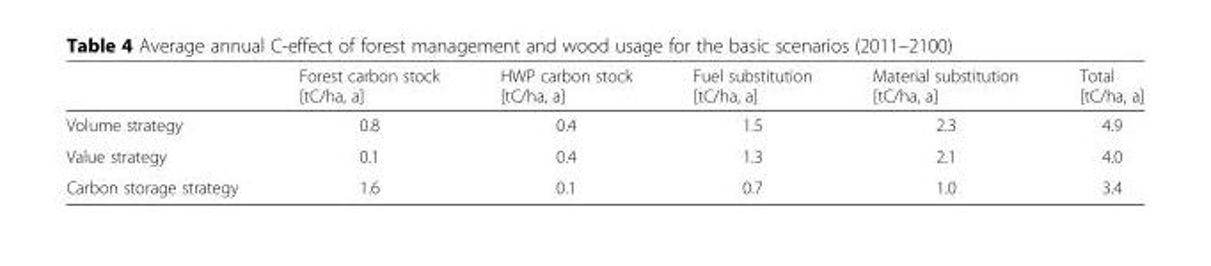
<table><thead><tr><td></td><td>Forest carbon stock [tC/ha, a]</td><td>HWP carbon stock [tC/ha, a]</td><td>Fuel substitution [tC/ha, a]</td><td>Material substitution [tC/ha, a]</td><td>Total [tC/ha, a]</td></tr></thead><tbody><tr><td>Volume strategy</td><td>0.8</td><td>0.4</td><td>1.5</td><td>2.3</td><td>4.9</td></tr><tr><td>Value strategy</td><td>0.1</td><td>0.4</td><td>1.3</td><td>2.1</td><td>4.0</td></tr><tr><td>Carbon storage strategy</td><td>1.6</td><td>0.1</td><td>0.7</td><td>1.0</td><td>3.4</td></tr></tbody></table>